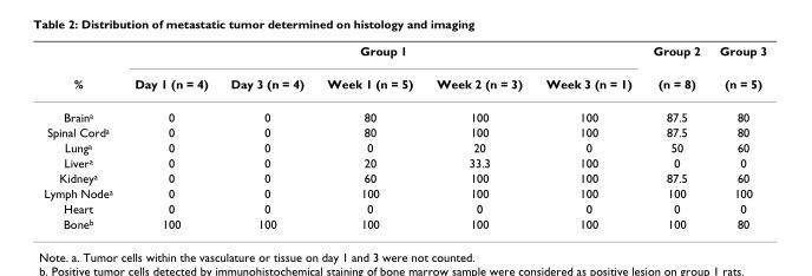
<table><thead><tr><td rowspan="2">%</td><td colspan="5">Group 1</td><td rowspan="2">Group 2 (n = 8)</td><td rowspan="2">Group 3 (n = 5)</td></tr><tr><td>Day 1 (n = 4)</td><td>Day 3 (n = 4)</td><td>Week 1 (n = 5)</td><td>Week 2 (n = 3)</td><td>Week 3 (n = 1)</td></tr></thead><tbody><tr><td>Brain<sup>a</sup></td><td>0</td><td>0</td><td>80</td><td>100</td><td>100</td><td>87.5</td><td>80</td></tr><tr><td>Spinal Cord<sup>a</sup></td><td>0</td><td>0</td><td>80</td><td>100</td><td>100</td><td>87.5</td><td>80</td></tr><tr><td>Lung<sup>a</sup></td><td>0</td><td>0</td><td>0</td><td>20</td><td>0</td><td>50</td><td>60</td></tr><tr><td>Liver<sup>a</sup></td><td>0</td><td>0</td><td>20</td><td>33.3</td><td>100</td><td>0</td><td>0</td></tr><tr><td>Kidney<sup>a</sup></td><td>0</td><td>0</td><td>60</td><td>100</td><td>100</td><td>87.5</td><td>60</td></tr><tr><td>Lymph Node<sup>a</sup></td><td>0</td><td>0</td><td>100</td><td>100</td><td>100</td><td>100</td><td>100</td></tr><tr><td>Heart</td><td>0</td><td>0</td><td>0</td><td>0</td><td>0</td><td>0</td><td>0</td></tr><tr><td>Bone<sup>b</sup></td><td>100</td><td>100</td><td>100</td><td>100</td><td>100</td><td>100</td><td>80</td></tr></tbody></table>